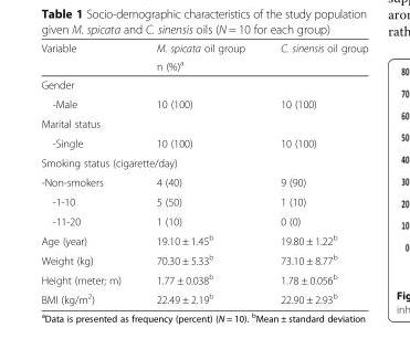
<table><thead><tr><td rowspan="2">Variable</td><td>M. spicata oil group</td><td>C. sinensis oil group</td></tr><tr><td colspan="2">n (%)<sup>a</sup></td></tr></thead><tbody><tr><td colspan="3">Gender</td></tr><tr><td>-Male</td><td>10 (100)</td><td>10 (100)</td></tr><tr><td colspan="3">Marital status</td></tr><tr><td>-Single</td><td>10 (100)</td><td>10 (100)</td></tr><tr><td colspan="3">Smoking status (cigarette/day)</td></tr><tr><td>-Non-smokers</td><td>4 (40)</td><td>9 (90)</td></tr><tr><td>-1-10</td><td>5 (50)</td><td>1 (10)</td></tr><tr><td>-11-20</td><td>1 (10)</td><td>0 (0)</td></tr><tr><td>Age (year)</td><td>19.10 ± 1.45<sup>b</sup></td><td>19.80 ± 1.22<sup>b</sup></td></tr><tr><td>Weight (kg)</td><td>70.30 ± 5.33<sup>b</sup></td><td>73.10 ± 8.77<sup>b</sup></td></tr><tr><td>Height (meter; m)</td><td>1.77 ± 0.038<sup>b</sup></td><td>1.78 ± 0.056<sup>b</sup></td></tr><tr><td>BMI (kg/m<sup>2</sup>)</td><td>22.49 ± 2.19<sup>b</sup></td><td>22.90 ± 2.93<sup>b</sup></td></tr></tbody></table>